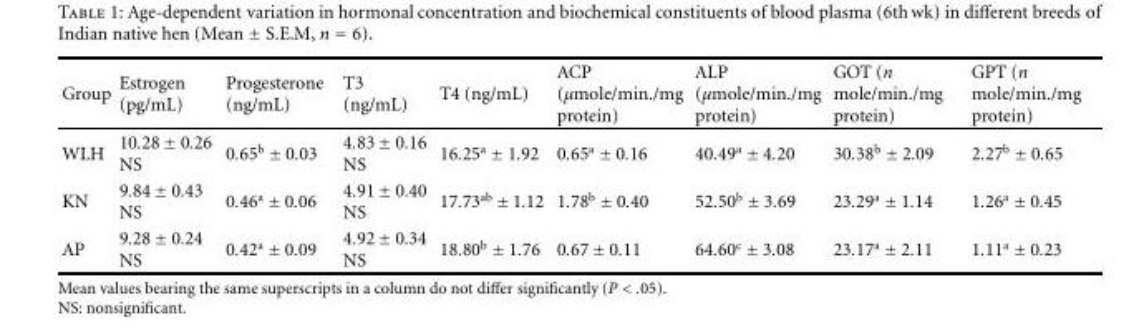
<table><thead><tr><td>Group</td><td>Estrogen (pg/mL)</td><td>Progesterone (ng/mL)</td><td>T3 (ng/mL)</td><td>T4 (ng/mL)</td><td>ACP (µmole/min./mg protein)</td><td>ALP (µmole/min./mg protein)</td><td>GOT (n mole/min./mg protein)</td><td>GPT (n mole/min./mg protein)</td></tr></thead><tbody><tr><td>WLH</td><td>10.28 ± 0.26 NS</td><td>0.65<sup>b</sup> ± 0.03</td><td>4.83 ± 0.16 NS</td><td>16.25<sup>a</sup> ± 1.92</td><td>0.65<sup>a</sup> ± 0.16</td><td>40.49<sup>a</sup> ± 4.20</td><td>30.38<sup>b</sup> ± 2.09</td><td>2.27<sup>b</sup> ± 0.65</td></tr><tr><td>KN</td><td>9.84 ± 0.43 NS</td><td>0.46<sup>a</sup> ± 0.06</td><td>4.91 ± 0.40 NS</td><td>17.73<sup>ab</sup> ± 1.12</td><td>1.78<sup>b</sup> ± 0.40</td><td>52.50<sup>b</sup> ± 3.69</td><td>23.29<sup>a</sup> ± 1.14</td><td>1.26<sup>a</sup> ± 0.45</td></tr><tr><td>AP</td><td>9.28 ± 0.24 NS</td><td>0.42<sup>a</sup> ± 0.09</td><td>4.92 ± 0.34 NS</td><td>18.80<sup>b</sup> ± 1.76</td><td>0.67 ± 0.11</td><td>64.60<sup>c</sup> ± 3.08</td><td>23.17<sup>a</sup> ± 2.11</td><td>1.11<sup>a</sup> ± 0.23</td></tr></tbody></table>